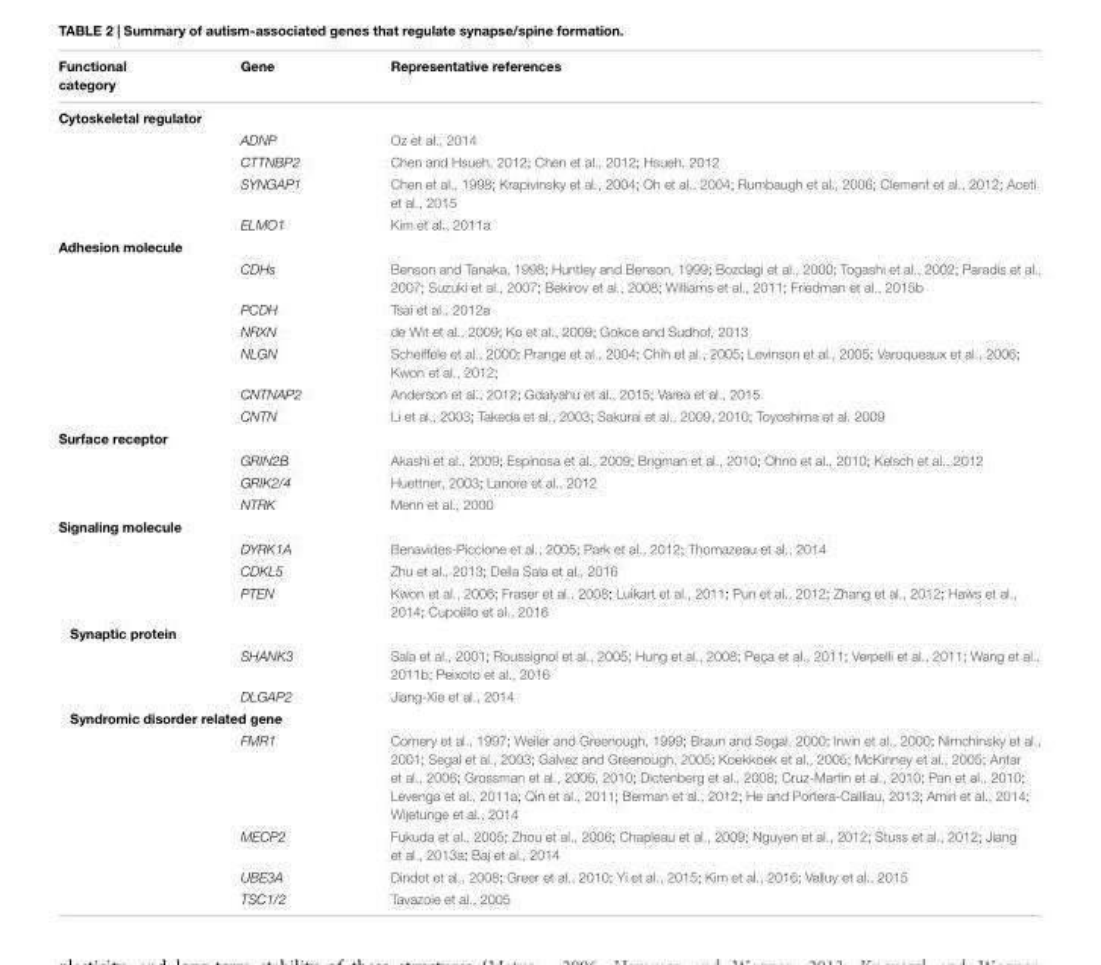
<table><thead><tr><td>Functional category</td><td>Gene</td><td>Representative references</td></tr></thead><tbody><tr><td colspan="3">Cytoskeletal regulator</td></tr><tr><td></td><td>ADNP</td><td>Oz et al., 2014</td></tr><tr><td></td><td>CTTNBP2</td><td>Chen and Hsueh, 2012; Chen et al., 2012; Hsueh, 2012</td></tr><tr><td></td><td>SYNGAP1</td><td>Chen et al., 1998; Krapivinsky et al., 2004; Oh et al., 2004; Rumbaugh et al., 2006; Clement et al., 2012; Aceti et al., 2015</td></tr><tr><td></td><td>ELMO1</td><td>Kim et al., 2011a</td></tr><tr><td colspan="3">Adhesion molecule</td></tr><tr><td></td><td>CDHs</td><td>Benson and Tanaka, 1998; Huntley and Benson, 1999; Bozdagi et al., 2000; Togashi et al., 2002; Paradis et al., 2007; Suzuki et al., 2007; Bekirov et al., 2008; Williams et al., 2011; Friedman et al., 2015b</td></tr><tr><td></td><td>PCDH</td><td>Tsai et al., 2012a</td></tr><tr><td></td><td>NRXN</td><td>de Wit et al., 2009; Ko et al., 2009; Gokce and Sudhof, 2013</td></tr><tr><td></td><td>NLGN</td><td>Scheiffele et al., 2000; Prange et al., 2004; Chih et al., 2005; Levinson et al., 2005; Varoqueaux et al., 2006; Kwon et al., 2012;</td></tr><tr><td></td><td>CNTNAP2</td><td>Anderson et al., 2012; Gdalyahu et al., 2015; Varea et al., 2015</td></tr><tr><td></td><td>CNTN</td><td>Li et al., 2003; Takeda et al., 2003; Sakurai et al., 2009, 2010; Toyoshima et al. 2009</td></tr><tr><td colspan="3">Surface receptor</td></tr><tr><td></td><td>GRIN2B</td><td>Akashi et al., 2009; Espinosa et al., 2009; Brigman et al., 2010; Ohno et al., 2010; Kelsch et al., 2012</td></tr><tr><td></td><td>GRIK2/4</td><td>Huettner, 2003; Lanore et al., 2012</td></tr><tr><td></td><td>NTRK</td><td>Menn et al., 2000</td></tr><tr><td colspan="3">Signaling molecule</td></tr><tr><td></td><td>DYRK1A</td><td>Benavides-Piccione et al., 2005; Park et al., 2012; Thomazeau et al., 2014</td></tr><tr><td></td><td>CDKL5</td><td>Zhu et al., 2013; Della Sala et al., 2016</td></tr><tr><td></td><td>PTEN</td><td>Kwon et al., 2006; Fraser et al., 2008; Luikart et al., 2011; Pun et al., 2012; Zhang et al., 2012; Haws et al., 2014; Cupolillo et al., 2016</td></tr><tr><td colspan="3">Synaptic protein</td></tr><tr><td></td><td>SHANK3</td><td>Sala et al., 2001; Roussignol et al., 2005; Hung et al., 2008; Peça et al., 2011; Verpelli et al., 2011; Wang et al., 2011b; Peixoto et al., 2016</td></tr><tr><td></td><td>DLGAP2</td><td>Jiang-Xie et al., 2014</td></tr><tr><td colspan="3">Syndromic disorder related gene</td></tr><tr><td></td><td>FMR1</td><td>Comery et al., 1997; Weiler and Greenough, 1999; Braun and Segal, 2000; Irwin et al., 2000; Nimchinsky et al., 2001; Segal et al., 2003; Galvez and Greenough, 2005; Koekkoek et al., 2005; McKinney et al., 2005; Antar et al., 2006; Grossman et al., 2006, 2010; Dictenberg et al., 2008; Cruz-Martin et al., 2010; Pan et al., 2010; Levenga et al., 2011a; Qin et al., 2011; Berman et al., 2012; He and Portera-Cailliau, 2013; Amiri et al., 2014; Wijetunge et al., 2014</td></tr><tr><td></td><td>MECP2</td><td>Fukuda et al., 2005; Zhou et al., 2006; Chapleau et al., 2009; Nguyen et al., 2012; Stuss et al., 2012; Jiang et al., 2013a; Baj et al., 2014</td></tr><tr><td></td><td>UBE3A</td><td>Dindot et al., 2008; Greer et al., 2010; Yi et al., 2015; Kim et al., 2016; Valluy et al., 2015</td></tr><tr><td></td><td>TSC1/2</td><td>Tavazoie et al., 2005</td></tr></tbody></table>